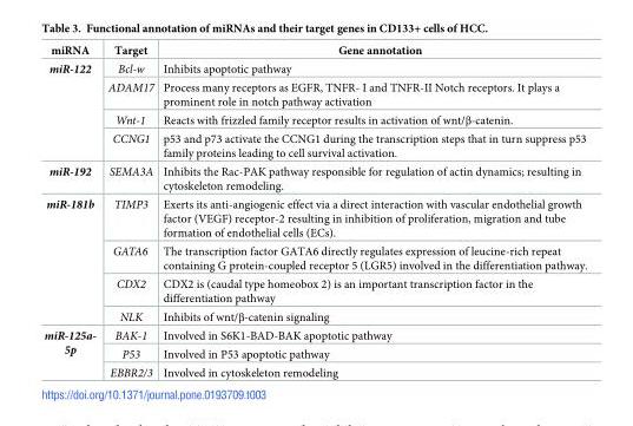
<table><thead><tr><td>miRNA</td><td>Target</td><td>Gene annotation</td></tr></thead><tbody><tr><td rowspan="4">miR-122</td><td>Bcl-w</td><td>Inhibits apoptotic pathway</td></tr><tr><td>ADAM17</td><td>Process many receptors as EGFR, TNFR- I and TNFR-II Notch receptors. It plays a prominent role in notch pathway activation</td></tr><tr><td>Wnt-1</td><td>Reacts with frizzled family receptor results in activation of wnt/β-catenin.</td></tr><tr><td>CCNG1</td><td>p53 and p73 activate the CCNG1 during the transcription steps that in turn suppress p53 family proteins leading to cell survival activation.</td></tr><tr><td>miR-192</td><td>SEMA3A</td><td>Inhibits the Rac-PAK pathway responsible for regulation of actin dynamics; resulting in cytoskeleton remodeling.</td></tr><tr><td rowspan="4">miR-181b</td><td>TIMP3</td><td>Exerts its anti-angiogenic effect via a direct interaction with vascular endothelial growth factor (VEGF) receptor-2 resulting in inhibition of proliferation, migration and tube formation of endothelial cells (ECs).</td></tr><tr><td>GATA6</td><td>The transcription factor GATA6 directly regulates expression of leucine-rich repeat containing G protein-coupled receptor 5 (LGR5) involved in the differentiation pathway.</td></tr><tr><td>CDX2</td><td>CDX2 is (caudal type homeobox 2) is an important transcription factor in the differentiation pathway</td></tr><tr><td>NLK</td><td>Inhibits of wnt/β-catenin signaling</td></tr><tr><td rowspan="3">miR-125a- 5p</td><td>BAK-1</td><td>Involved in S6K1-BAD-BAK apoptotic pathway</td></tr><tr><td>P53</td><td>Involved in P53 apoptotic pathway</td></tr><tr><td>EBBR2/3</td><td>Involved in cytoskeleton remodeling</td></tr></tbody></table>